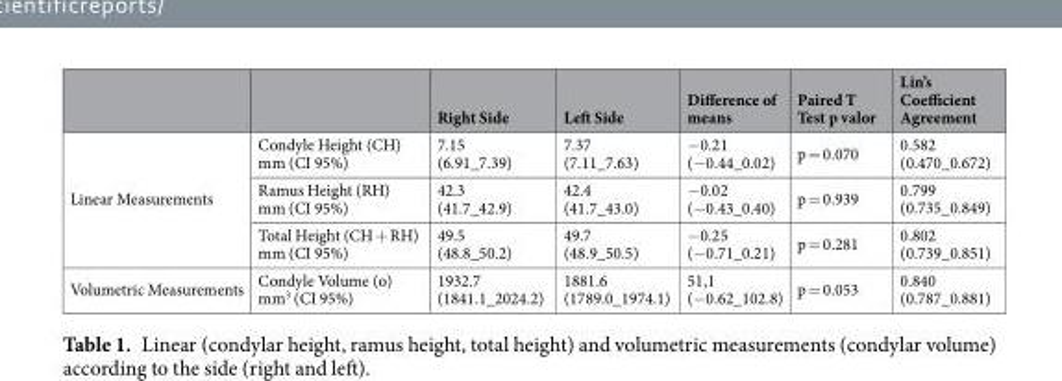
<table><thead><tr><td></td><td></td><td>Right Side</td><td>Left Side</td><td>Difference of means</td><td>Paired T Test p valor</td><td>Lin’s Coefficient Agreement</td></tr></thead><tbody><tr><td rowspan="3">Linear Measurements</td><td>Condyle Height (CH) mm (CI 95%)</td><td>7.15 (6.91_7.39)</td><td>7.37 (7.11_7.63)</td><td>−0.21 (−0.44_0.02)</td><td>p = 0.070</td><td>0.582 (0.470_0.672)</td></tr><tr><td>Ramus Height (RH) mm (CI 95%)</td><td>42.3 (41.7_42.9)</td><td>42.4 (41.7_43.0)</td><td>−0.02 (−0.43_0.40)</td><td>p = 0.939</td><td>0.799 (0.735_0.849)</td></tr><tr><td>Total Height (CH + RH) mm (CI 95%)</td><td>49.5 (48.8_50.2)</td><td>49.7 (48.9_50.5)</td><td>−0.25 (−0.71_0.21)</td><td>p = 0.281</td><td>0.802 (0.739_0.851)</td></tr><tr><td>Volumetric Measurements</td><td>Condyle Volume (o) mm<sup>3</sup> (CI 95%)</td><td>1932.7 (1841.1_2024.2)</td><td>1881.6 (1789.0_1974.1)</td><td>51,1 (−0.62_102.8)</td><td>p = 0.053</td><td>0.840 (0.787_0.881)</td></tr></tbody></table>